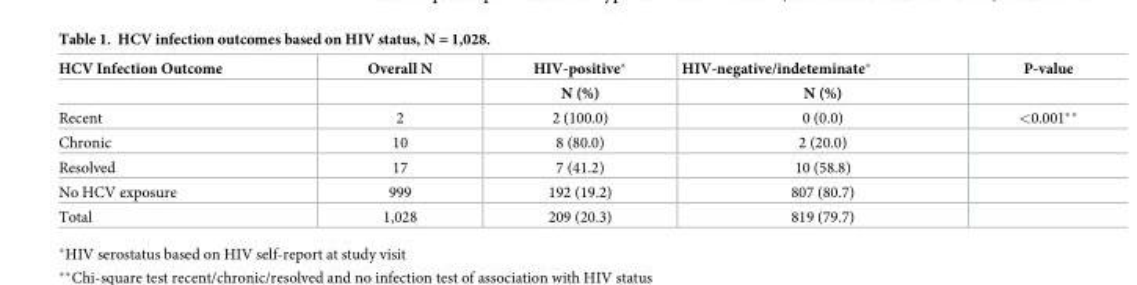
<table><thead><tr><td rowspan="2">HCV Infection Outcome</td><td rowspan="2">Overall N</td><td rowspan="2">HIV-positive* N (%)</td><td rowspan="2">HIV-negative/indeteminate* N (%)</td><td rowspan="2">P-value</td></tr><tr></tr></thead><tbody><tr><td>Recent</td><td>2</td><td>2 (100.0)</td><td>0 (0.0)</td><td>&lt;0.001**</td></tr><tr><td>Chronic</td><td>10</td><td>8 (80.0)</td><td>2 (20.0)</td><td></td></tr><tr><td>Resolved</td><td>17</td><td>7 (41.2)</td><td>10 (58.8)</td><td></td></tr><tr><td>No HCV exposure</td><td>999</td><td>192 (19.2)</td><td>807 (80.7)</td><td></td></tr><tr><td>Total</td><td>1,028</td><td>209 (20.3)</td><td>819 (79.7)</td><td></td></tr></tbody></table>